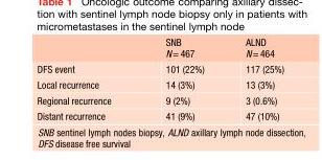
<table><thead><tr><td></td><td>SNB N= 467</td><td>ALND N= 464</td></tr></thead><tbody><tr><td>DFS event</td><td>101 (22%)</td><td>117 (25%)</td></tr><tr><td>Local recurrence</td><td>14 (3%)</td><td>13 (3%)</td></tr><tr><td>Regional recurrence</td><td>9 (2%)</td><td>3 (0.6%)</td></tr><tr><td>Distant recurrence</td><td>41 (9%)</td><td>47 (10%)</td></tr></tbody></table>